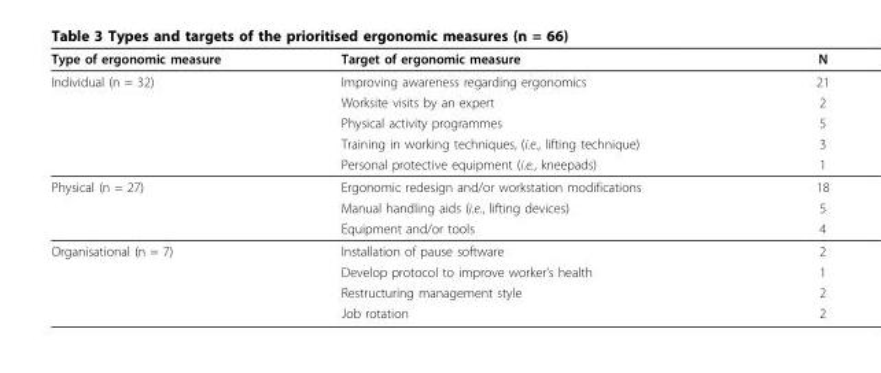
<table><thead><tr><td>Type of ergonomic measure</td><td>Target of ergonomic measure</td><td>N</td></tr></thead><tbody><tr><td rowspan="5">Individual (n = 32)</td><td>Improving awareness regarding ergonomics</td><td>21</td></tr><tr><td>Worksite visits by an expert</td><td>2</td></tr><tr><td>Physical activity programmes</td><td>5</td></tr><tr><td>Training in working techniques, (i.e., lifting technique)</td><td>3</td></tr><tr><td>Personal protective equipment (i.e., kneepads)</td><td>1</td></tr><tr><td rowspan="3">Physical (n = 27)</td><td>Ergonomic redesign and/or workstation modifications</td><td>18</td></tr><tr><td>Manual handling aids (i.e., lifting devices)</td><td>5</td></tr><tr><td>Equipment and/or tools</td><td>4</td></tr><tr><td rowspan="4">Organisational (n = 7)</td><td>Installation of pause software</td><td>2</td></tr><tr><td>Develop protocol to improve worker’s health</td><td>1</td></tr><tr><td>Restructuring management style</td><td>2</td></tr><tr><td>Job rotation</td><td>2</td></tr></tbody></table>